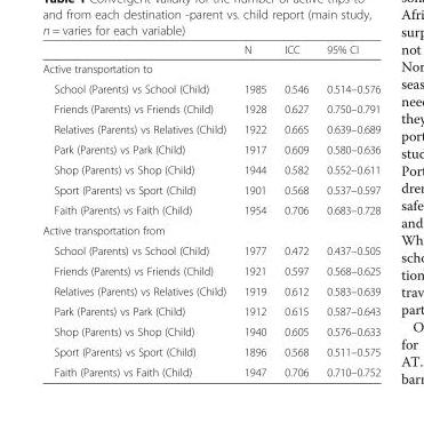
<table><thead><tr><td></td><td>N</td><td>ICC</td><td>95% CI</td></tr></thead><tbody><tr><td colspan="4">Active transportation to</td></tr><tr><td>School (Parents) vs School (Child)</td><td>1985</td><td>0.546</td><td>0.514–0.576</td></tr><tr><td>Friends (Parents) vs Friends (Child)</td><td>1928</td><td>0.627</td><td>0.750–0.791</td></tr><tr><td>Relatives (Parents) vs Relatives (Child)</td><td>1922</td><td>0.665</td><td>0.639–0.689</td></tr><tr><td>Park (Parents) vs Park (Child)</td><td>1917</td><td>0.609</td><td>0.580–0.636</td></tr><tr><td>Shop (Parents) vs Shop (Child)</td><td>1944</td><td>0.582</td><td>0.552–0.611</td></tr><tr><td>Sport (Parents) vs Sport (Child)</td><td>1901</td><td>0.568</td><td>0.537–0.597</td></tr><tr><td>Faith (Parents) vs Faith (Child)</td><td>1954</td><td>0.706</td><td>0.683–0.728</td></tr><tr><td colspan="4">Active transportation from</td></tr><tr><td>School (Parents) vs School (Child)</td><td>1977</td><td>0.472</td><td>0.437–0.505</td></tr><tr><td>Friends (Parents) vs Friends (Child)</td><td>1921</td><td>0.597</td><td>0.568–0.625</td></tr><tr><td>Relatives (Parents) vs Relatives (Child)</td><td>1919</td><td>0.612</td><td>0.583–0.639</td></tr><tr><td>Park (Parents) vs Park (Child)</td><td>1912</td><td>0.615</td><td>0.587–0.643</td></tr><tr><td>Shop (Parents) vs Shop (Child)</td><td>1940</td><td>0.605</td><td>0.576–0.633</td></tr><tr><td>Sport (Parents) vs Sport (Child)</td><td>1896</td><td>0.568</td><td>0.511–0.575</td></tr><tr><td>Faith (Parents) vs Faith (Child)</td><td>1947</td><td>0.706</td><td>0.710–0.752</td></tr></tbody></table>